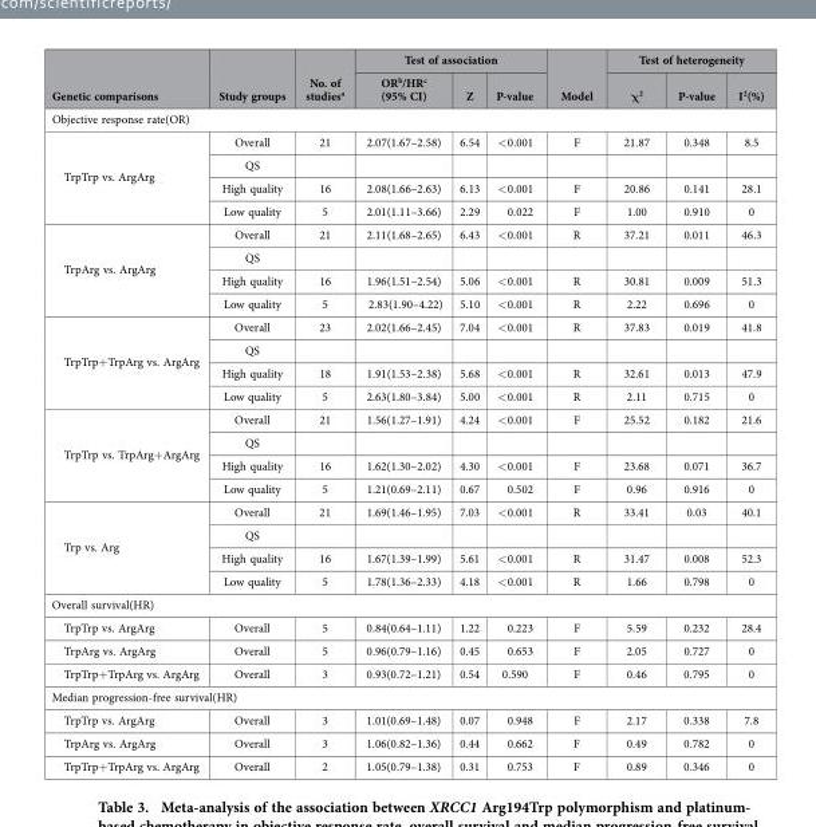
<table><thead><tr><td rowspan="2">Genetic comparisons</td><td rowspan="2">Study groups</td><td rowspan="2">No. of studies<sup>a</sup></td><td colspan="3">Test of association</td><td rowspan="2">Model</td><td colspan="3">Test of heterogeneity</td></tr><tr><td>OR<sup>b</sup>/HR<sup>c</sup> (95% CI)</td><td>Z</td><td>P-value</td><td>χ<sup>2</sup></td><td>P-value</td><td>I<sup>2</sup>(%)</td></tr></thead><tbody><tr><td colspan="10">Objective response rate(OR)</td></tr><tr><td rowspan="4">TrpTrp vs. ArgArg</td><td>Overall</td><td>21</td><td>2.07(1.67–2.58)</td><td>6.54</td><td>&lt; 0.001</td><td>F</td><td>21.87</td><td>0.348</td><td>8.5</td></tr><tr><td>QS</td><td></td><td></td><td></td><td></td><td></td><td></td><td></td><td></td></tr><tr><td>High quality</td><td>16</td><td>2.08(1.66–2.63)</td><td>6.13</td><td>&lt; 0.001</td><td>F</td><td>20.86</td><td>0.141</td><td>28.1</td></tr><tr><td>Low quality</td><td>5</td><td>2.01(1.11–3.66)</td><td>2.29</td><td>0.022</td><td>F</td><td>1.00</td><td>0.910</td><td>0</td></tr><tr><td rowspan="4">TrpArg vs. ArgArg</td><td>Overall</td><td>21</td><td>2.11(1.68–2.65)</td><td>6.43</td><td>&lt; 0.001</td><td>R</td><td>37.21</td><td>0.011</td><td>46.3</td></tr><tr><td>QS</td><td></td><td></td><td></td><td></td><td></td><td></td><td></td><td></td></tr><tr><td>High quality</td><td>16</td><td>1.96(1.51–2.54)</td><td>5.06</td><td>&lt; 0.001</td><td>R</td><td>30.81</td><td>0.009</td><td>51.3</td></tr><tr><td>Low quality</td><td>5</td><td>2.83(1.90–4.22)</td><td>5.10</td><td>&lt; 0.001</td><td>R</td><td>2.22</td><td>0.696</td><td>0</td></tr><tr><td rowspan="4">TrpTrp+TrpArg vs. ArgArg</td><td>Overall</td><td>23</td><td>2.02(1.66–2.45)</td><td>7.04</td><td>&lt; 0.001</td><td>R</td><td>37.83</td><td>0.019</td><td>41.8</td></tr><tr><td>QS</td><td></td><td></td><td></td><td></td><td></td><td></td><td></td><td></td></tr><tr><td>High quality</td><td>18</td><td>1.91(1.53–2.38)</td><td>5.68</td><td>&lt; 0.001</td><td>R</td><td>32.61</td><td>0.013</td><td>47.9</td></tr><tr><td>Low quality</td><td>5</td><td>2.63(1.80–3.84)</td><td>5.00</td><td>&lt; 0.001</td><td>R</td><td>2.11</td><td>0.715</td><td>0</td></tr><tr><td rowspan="4">TrpTrp vs. TrpArg+ArgArg</td><td>Overall</td><td>21</td><td>1.56(1.27–1.91)</td><td>4.24</td><td>&lt; 0.001</td><td>F</td><td>25.52</td><td>0.182</td><td>21.6</td></tr><tr><td>QS</td><td></td><td></td><td></td><td></td><td></td><td></td><td></td><td></td></tr><tr><td>High quality</td><td>16</td><td>1.62(1.30–2.02)</td><td>4.30</td><td>&lt; 0.001</td><td>F</td><td>23.68</td><td>0.071</td><td>36.7</td></tr><tr><td>Low quality</td><td>5</td><td>1.21(0.69–2.11)</td><td>0.67</td><td>0.502</td><td>F</td><td>0.96</td><td>0.916</td><td>0</td></tr><tr><td rowspan="4">Trp vs. Arg</td><td>Overall</td><td>21</td><td>1.69(1.46–1.95)</td><td>7.03</td><td>&lt; 0.001</td><td>R</td><td>33.41</td><td>0.03</td><td>40.1</td></tr><tr><td>QS</td><td></td><td></td><td></td><td></td><td></td><td></td><td></td><td></td></tr><tr><td>High quality</td><td>16</td><td>1.67(1.39–1.99)</td><td>5.61</td><td>&lt; 0.001</td><td>R</td><td>31.47</td><td>0.008</td><td>52.3</td></tr><tr><td>Low quality</td><td>5</td><td>1.78(1.36–2.33)</td><td>4.18</td><td>&lt; 0.001</td><td>R</td><td>1.66</td><td>0.798</td><td>0</td></tr><tr><td colspan="10">Overall survival(HR)</td></tr><tr><td>TrpTrp vs. ArgArg</td><td>Overall</td><td>5</td><td>0.84(0.64–1.11)</td><td>1.22</td><td>0.223</td><td>F</td><td>5.59</td><td>0.232</td><td>28.4</td></tr><tr><td>TrpArg vs. ArgArg</td><td>Overall</td><td>5</td><td>0.96(0.79–1.16)</td><td>0.45</td><td>0.653</td><td>F</td><td>2.05</td><td>0.727</td><td>0</td></tr><tr><td>TrpTrp+TrpArg vs. ArgArg</td><td>Overall</td><td>3</td><td>0.93(0.72–1.21)</td><td>0.54</td><td>0.590</td><td>F</td><td>0.46</td><td>0.795</td><td>0</td></tr><tr><td colspan="10">Median progression-free survival(HR)</td></tr><tr><td>TrpTrp vs. ArgArg</td><td>Overall</td><td>3</td><td>1.01(0.69–1.48)</td><td>0.07</td><td>0.948</td><td>F</td><td>2.17</td><td>0.338</td><td>7.8</td></tr><tr><td>TrpArg vs. ArgArg</td><td>Overall</td><td>3</td><td>1.06(0.82–1.36)</td><td>0.44</td><td>0.662</td><td>F</td><td>0.49</td><td>0.782</td><td>0</td></tr><tr><td>TrpTrp+TrpArg vs. ArgArg</td><td>Overall</td><td>2</td><td>1.05(0.79–1.38)</td><td>0.31</td><td>0.753</td><td>F</td><td>0.89</td><td>0.346</td><td>0</td></tr></tbody></table>